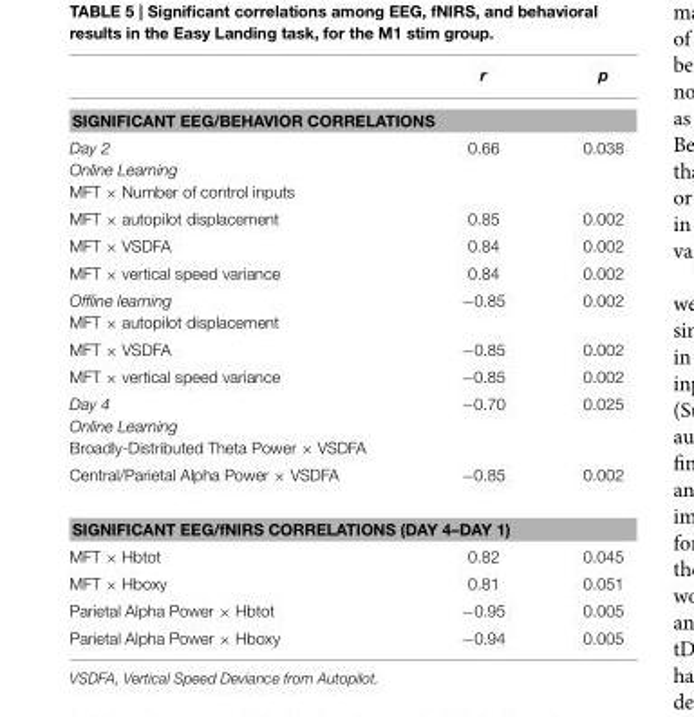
<table><thead><tr><td></td><td>r</td><td>p</td></tr></thead><tbody><tr><td colspan="3">SIGNIFICANT EEG/BEHAVIOR CORRELATIONS</td></tr><tr><td>Day 2 Online Learning MFT × Number of control inputs</td><td>0.66</td><td>0.038</td></tr><tr><td>MFT × autopilot displacement</td><td>0.85</td><td>0.002</td></tr><tr><td>MFT × VSDFA</td><td>0.84</td><td>0.002</td></tr><tr><td>MFT × vertical speed variance</td><td>0.84</td><td>0.002</td></tr><tr><td>Offline learning MFT × autopilot displacement</td><td>−0.85</td><td>0.002</td></tr><tr><td>MFT × VSDFA</td><td>−0.85</td><td>0.002</td></tr><tr><td>MFT × vertical speed variance</td><td>−0.85</td><td>0.002</td></tr><tr><td>Day 4 Online Learning Broadly-Distributed Theta Power × VSDFA</td><td>−0.70</td><td>0.025</td></tr><tr><td>Central/Parietal Alpha Power × VSDFA</td><td>−0.85</td><td>0.002</td></tr><tr><td colspan="3">SIGNIFICANT EEG/fNIRS CORRELATIONS (DAY 4–DAY 1)</td></tr><tr><td>MFT × Hbtot</td><td>0.82</td><td>0.045</td></tr><tr><td>MFT × Hboxy</td><td>0.81</td><td>0.051</td></tr><tr><td>Parietal Alpha Power × Hbtot</td><td>−0.95</td><td>0.005</td></tr><tr><td>Parietal Alpha Power × Hboxy</td><td>−0.94</td><td>0.005</td></tr></tbody></table>